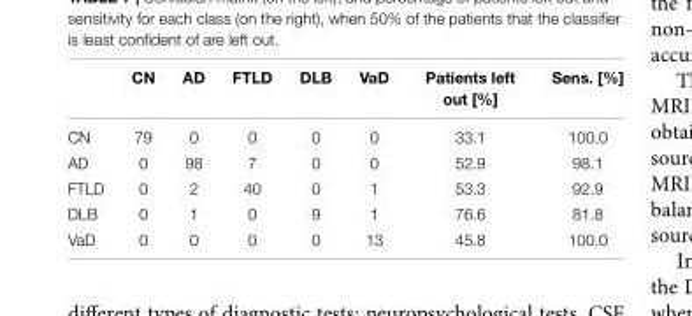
<table><thead><tr><td></td><td>CN</td><td>AD</td><td>FTLD</td><td>DLB</td><td>VaD</td><td>Patients left out [%]</td><td>Sens. [%]</td></tr></thead><tbody><tr><td>CN</td><td>79</td><td>0</td><td>0</td><td>0</td><td>0</td><td>33.1</td><td>100.0</td></tr><tr><td>AD</td><td>0</td><td>98</td><td>7</td><td>0</td><td>0</td><td>52.9</td><td>98.1</td></tr><tr><td>FTLD</td><td>0</td><td>2</td><td>40</td><td>0</td><td>1</td><td>53.3</td><td>92.9</td></tr><tr><td>DLB</td><td>0</td><td>1</td><td>0</td><td>9</td><td>1</td><td>76.6</td><td>81.8</td></tr><tr><td>VaD</td><td>0</td><td>0</td><td>0</td><td>0</td><td>13</td><td>45.8</td><td>100.0</td></tr></tbody></table>